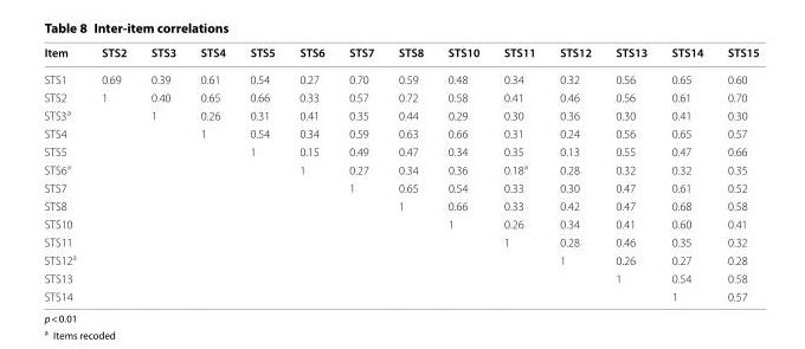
<table><thead><tr><td>Item</td><td>STS2</td><td>STS3</td><td>STS4</td><td>STS5</td><td>STS6</td><td>STS7</td><td>STS8</td><td>STS10</td><td>STS11</td><td>STS12</td><td>STS13</td><td>STS14</td><td>STS15</td></tr></thead><tbody><tr><td>STS1</td><td>0.69</td><td>0.39</td><td>0.61</td><td>0.54</td><td>0.27</td><td>0.70</td><td>0.59</td><td>0.48</td><td>0.34</td><td>0.32</td><td>0.56</td><td>0.65</td><td>0.60</td></tr><tr><td>STS2</td><td>1</td><td>0.40</td><td>0.65</td><td>0.66</td><td>0.33</td><td>0.57</td><td>0.72</td><td>0.58</td><td>0.41</td><td>0.46</td><td>0.56</td><td>0.61</td><td>0.70</td></tr><tr><td>STS3<sup>a</sup></td><td></td><td>1</td><td>0.26</td><td>0.31</td><td>0.41</td><td>0.35</td><td>0.44</td><td>0.29</td><td>0.30</td><td>0.36</td><td>0.30</td><td>0.41</td><td>0.30</td></tr><tr><td>STS4</td><td></td><td></td><td>1</td><td>0.54</td><td>0.34</td><td>0.59</td><td>0.63</td><td>0.66</td><td>0.31</td><td>0.24</td><td>0.56</td><td>0.65</td><td>0.57</td></tr><tr><td>STS5</td><td></td><td></td><td></td><td>1</td><td>0.15</td><td>0.49</td><td>0.47</td><td>0.34</td><td>0.35</td><td>0.13</td><td>0.55</td><td>0.47</td><td>0.66</td></tr><tr><td>STS6<sup>a</sup></td><td></td><td></td><td></td><td></td><td>1</td><td>0.27</td><td>0.34</td><td>0.36</td><td>0.18<sup>a</sup></td><td>0.28</td><td>0.32</td><td>0.32</td><td>0.35</td></tr><tr><td>STS7</td><td></td><td></td><td></td><td></td><td></td><td>1</td><td>0.65</td><td>0.54</td><td>0.33</td><td>0.30</td><td>0.47</td><td>0.61</td><td>0.52</td></tr><tr><td>STS8</td><td></td><td></td><td></td><td></td><td></td><td></td><td>1</td><td>0.66</td><td>0.33</td><td>0.42</td><td>0.47</td><td>0.68</td><td>0.58</td></tr><tr><td>STS10</td><td></td><td></td><td></td><td></td><td></td><td></td><td></td><td>1</td><td>0.26</td><td>0.34</td><td>0.41</td><td>0.60</td><td>0.41</td></tr><tr><td>STS11</td><td></td><td></td><td></td><td></td><td></td><td></td><td></td><td></td><td>1</td><td>0.28</td><td>0.46</td><td>0.35</td><td>0.32</td></tr><tr><td>STS12<sup>a</sup></td><td></td><td></td><td></td><td></td><td></td><td></td><td></td><td></td><td></td><td>1</td><td>0.26</td><td>0.27</td><td>0.28</td></tr><tr><td>STS13</td><td></td><td></td><td></td><td></td><td></td><td></td><td></td><td></td><td></td><td></td><td>1</td><td>0.54</td><td>0.58</td></tr><tr><td>STS14</td><td></td><td></td><td></td><td></td><td></td><td></td><td></td><td></td><td></td><td></td><td></td><td>1</td><td>0.57</td></tr></tbody></table>